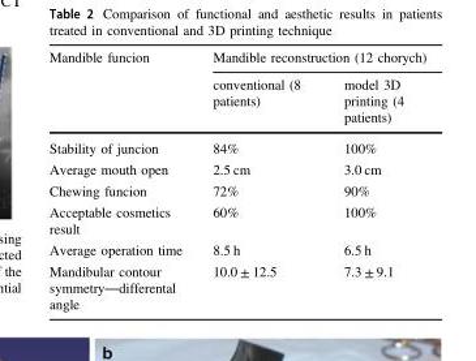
<table><thead><tr><td rowspan="2">Mandible funcion</td><td colspan="2">Mandible reconstruction (12 chorych)</td></tr><tr><td>conventional (8 patients)</td><td>model 3D printing (4 patients)</td></tr></thead><tbody><tr><td>Stability of juncion</td><td>84%</td><td>100%</td></tr><tr><td>Average mouth open</td><td>2.5 cm</td><td>3.0 cm</td></tr><tr><td>Chewing funcion</td><td>72%</td><td>90%</td></tr><tr><td>Acceptable cosmetics result</td><td>60%</td><td>100%</td></tr><tr><td>Average operation time</td><td>8.5 h</td><td>6.5 h</td></tr><tr><td>Mandibular contour symmetry—differental angle</td><td>10.0 ± 12.5</td><td>7.3 ± 9.1</td></tr></tbody></table>